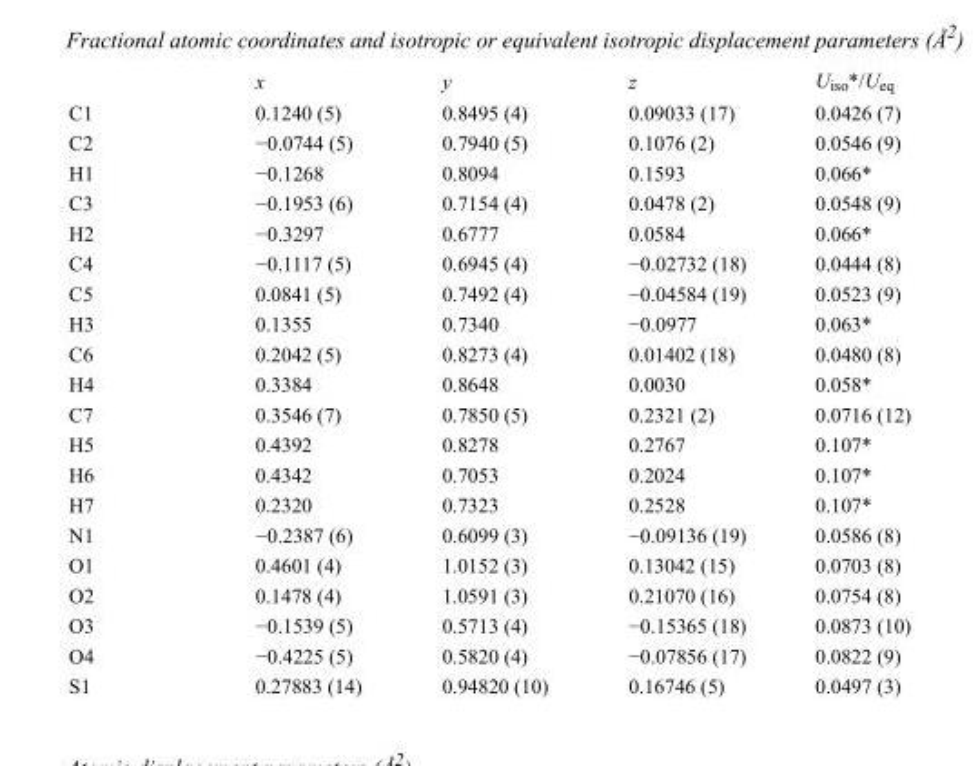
<table><thead><tr><td></td><td>x</td><td>y</td><td>z</td><td>U<sub>iso</sub>*/U<sub>eq</sub></td></tr></thead><tbody><tr><td>C1</td><td>0.1240 (5)</td><td>0.8495 (4)</td><td>0.09033 (17)</td><td>0.0426 (7)</td></tr><tr><td>C2</td><td>−0.0744 (5)</td><td>0.7940 (5)</td><td>0.1076 (2)</td><td>0.0546 (9)</td></tr><tr><td>H1</td><td>−0.1268</td><td>0.8094</td><td>0.1593</td><td>0.066*</td></tr><tr><td>C3</td><td>−0.1953 (6)</td><td>0.7154 (4)</td><td>0.0478 (2)</td><td>0.0548 (9)</td></tr><tr><td>H2</td><td>−0.3297</td><td>0.6777</td><td>0.0584</td><td>0.066*</td></tr><tr><td>C4</td><td>−0.1117 (5)</td><td>0.6945 (4)</td><td>−0.02732 (18)</td><td>0.0444 (8)</td></tr><tr><td>C5</td><td>0.0841 (5)</td><td>0.7492 (4)</td><td>−0.04584 (19)</td><td>0.0523 (9)</td></tr><tr><td>H3</td><td>0.1355</td><td>0.7340</td><td>−0.0977</td><td>0.063*</td></tr><tr><td>C6</td><td>0.2042 (5)</td><td>0.8273 (4)</td><td>0.01402 (18)</td><td>0.0480 (8)</td></tr><tr><td>H4</td><td>0.3384</td><td>0.8648</td><td>0.0030</td><td>0.058*</td></tr><tr><td>C7</td><td>0.3546 (7)</td><td>0.7850 (5)</td><td>0.2321 (2)</td><td>0.0716 (12)</td></tr><tr><td>H5</td><td>0.4392</td><td>0.8278</td><td>0.2767</td><td>0.107*</td></tr><tr><td>H6</td><td>0.4342</td><td>0.7053</td><td>0.2024</td><td>0.107*</td></tr><tr><td>H7</td><td>0.2320</td><td>0.7323</td><td>0.2528</td><td>0.107*</td></tr><tr><td>N1</td><td>−0.2387 (6)</td><td>0.6099 (3)</td><td>−0.09136 (19)</td><td>0.0586 (8)</td></tr><tr><td>O1</td><td>0.4601 (4)</td><td>1.0152 (3)</td><td>0.13042 (15)</td><td>0.0703 (8)</td></tr><tr><td>O2</td><td>0.1478 (4)</td><td>1.0591 (3)</td><td>0.21070 (16)</td><td>0.0754 (8)</td></tr><tr><td>O3</td><td>−0.1539 (5)</td><td>0.5713 (4)</td><td>−0.15365 (18)</td><td>0.0873 (10)</td></tr><tr><td>O4</td><td>−0.4225 (5)</td><td>0.5820 (4)</td><td>−0.07856 (17)</td><td>0.0822 (9)</td></tr><tr><td>S1</td><td>0.27883 (14)</td><td>0.94820 (10)</td><td>0.16746 (5)</td><td>0.0497 (3)</td></tr></tbody></table>